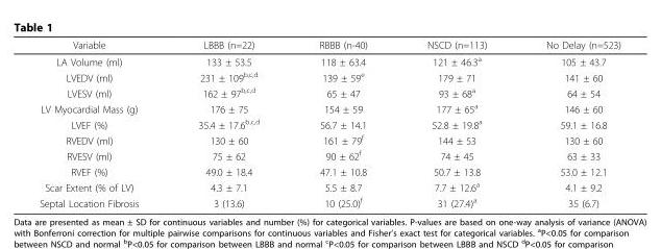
<table><thead><tr><td>Variable</td><td>LBBB (n=22)</td><td>RBBB (n-40)</td><td>NSCD (n=113)</td><td>No Delay (n=523)</td></tr></thead><tbody><tr><td>LA Volume (ml)</td><td>133 ± 53.5</td><td>118 ± 63.4</td><td>121 ± 46.3<sup>a</sup></td><td>105 ± 43.7</td></tr><tr><td>LVEDV (ml)</td><td>231 ± 109<sup>b,c,d</sup></td><td>139 ± 59<sup>e</sup></td><td>179 ± 71</td><td>141 ± 60</td></tr><tr><td>LVESV (ml)</td><td>162 ± 97<sup>b,c,d</sup></td><td>65 ± 47</td><td>93 ± 68<sup>a</sup></td><td>64 ± 54</td></tr><tr><td>LV Myocardial Mass (g)</td><td>176 ± 75</td><td>154 ± 59</td><td>177 ± 65<sup>a</sup></td><td>146 ± 60</td></tr><tr><td>LVEF (%)</td><td>35.4 ± 17.6<sup>b,c,d</sup></td><td>56.7 ± 14.1</td><td>52.8 ± 19.8<sup>a</sup></td><td>59.1 ± 16.8</td></tr><tr><td>RVEDV (ml)</td><td>130 ± 60</td><td>161 ± 79<sup>f</sup></td><td>144 ± 53</td><td>130 ± 60</td></tr><tr><td>RVESV (ml)</td><td>75 ± 62</td><td>90 ± 62<sup>f</sup></td><td>74 ± 45</td><td>63 ± 33</td></tr><tr><td>RVEF (%)</td><td>49.0 ± 18.4</td><td>47.1 ± 10.8</td><td>50.7 ± 13.8</td><td>53.0 ± 12.1</td></tr><tr><td>Scar Extent (% of LV)</td><td>4.3 ± 7.1</td><td>5.5 ± 8.7</td><td>7.7 ± 12.6<sup>a</sup></td><td>4.1 ± 9.2</td></tr><tr><td>Septal Location Fibrosis</td><td>3 (13.6)</td><td>10 (25.0)<sup>f</sup></td><td>31 (27.4)<sup>a</sup></td><td>35 (6.7)</td></tr></tbody></table>